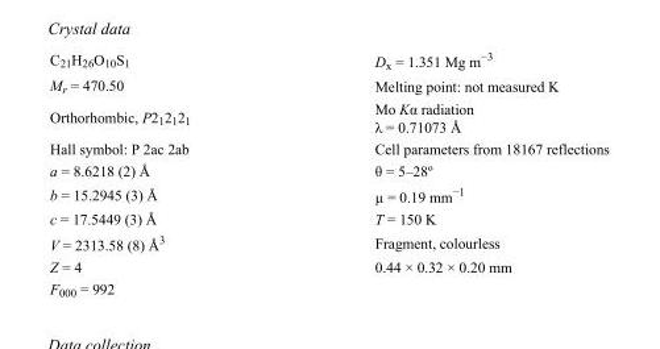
<table><tbody><tr><td>C<sub>21</sub>H<sub>26</sub>O<sub>10</sub>S<sub>1</sub></td><td>D<sub>x</sub> = 1.351 Mg m<sup>−3</sup></td></tr><tr><td>M<sub>r</sub> = 470.50</td><td>Melting point: not measured K</td></tr><tr><td>Orthorhombic, P2<sub>1</sub>2<sub>1</sub>2<sub>1</sub></td><td>Mo Kα radiation λ = 0.71073 Å</td></tr><tr><td>Hall symbol: P 2ac 2ab</td><td>Cell parameters from 18167 reflections</td></tr><tr><td>a = 8.6218 (2) Å</td><td>θ = 5–28º</td></tr><tr><td>b = 15.2945 (3) Å</td><td>µ = 0.19 mm<sup>−1</sup></td></tr><tr><td>c = 17.5449 (3) Å</td><td>T = 150 K</td></tr><tr><td>V = 2313.58 (8) Å<sup>3</sup></td><td>Fragment, colourless</td></tr><tr><td>Z = 4</td><td>0.44 × 0.32 × 0.20 mm</td></tr><tr><td>F<sub>000</sub> = 992</td><td></td></tr></tbody></table>